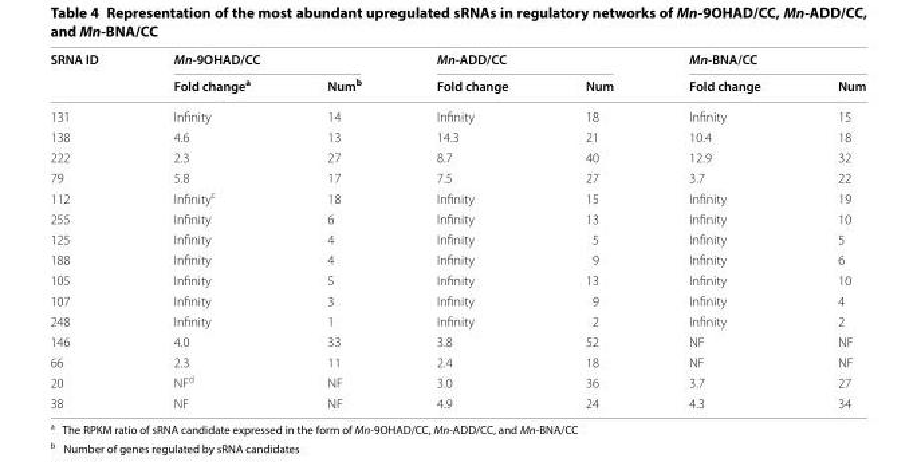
<table><thead><tr><td rowspan="2">SRNA ID</td><td colspan="2">Mn-9OHAD/CC</td><td colspan="2">Mn-ADD/CC</td><td colspan="2">Mn-BNA/CC</td></tr><tr><td>Fold change<sup>a</sup></td><td>Num<sup>b</sup></td><td>Fold change</td><td>Num</td><td>Fold change</td><td>Num</td></tr></thead><tbody><tr><td>131</td><td>Infinity</td><td>14</td><td>Infinity</td><td>18</td><td>Infinity</td><td>15</td></tr><tr><td>138</td><td>4.6</td><td>13</td><td>14.3</td><td>21</td><td>10.4</td><td>18</td></tr><tr><td>222</td><td>2.3</td><td>27</td><td>8.7</td><td>40</td><td>12.9</td><td>32</td></tr><tr><td>79</td><td>5.8</td><td>17</td><td>7.5</td><td>27</td><td>3.7</td><td>22</td></tr><tr><td>112</td><td>Infinity<sup>c</sup></td><td>18</td><td>Infinity</td><td>15</td><td>Infinity</td><td>19</td></tr><tr><td>255</td><td>Infinity</td><td>6</td><td>Infinity</td><td>13</td><td>Infinity</td><td>10</td></tr><tr><td>125</td><td>Infinity</td><td>4</td><td>Infinity</td><td>5</td><td>Infinity</td><td>5</td></tr><tr><td>188</td><td>Infinity</td><td>4</td><td>Infinity</td><td>9</td><td>Infinity</td><td>6</td></tr><tr><td>105</td><td>Infinity</td><td>5</td><td>Infinity</td><td>13</td><td>Infinity</td><td>10</td></tr><tr><td>107</td><td>Infinity</td><td>3</td><td>Infinity</td><td>9</td><td>Infinity</td><td>4</td></tr><tr><td>248</td><td>Infinity</td><td>1</td><td>Infinity</td><td>2</td><td>Infinity</td><td>2</td></tr><tr><td>146</td><td>4.0</td><td>33</td><td>3.8</td><td>52</td><td>NF</td><td>NF</td></tr><tr><td>66</td><td>2.3</td><td>11</td><td>2.4</td><td>18</td><td>NF</td><td>NF</td></tr><tr><td>20</td><td>NF<sup>d</sup></td><td>NF</td><td>3.0</td><td>36</td><td>3.7</td><td>27</td></tr><tr><td>38</td><td>NF</td><td>NF</td><td>4.9</td><td>24</td><td>4.3</td><td>34</td></tr></tbody></table>